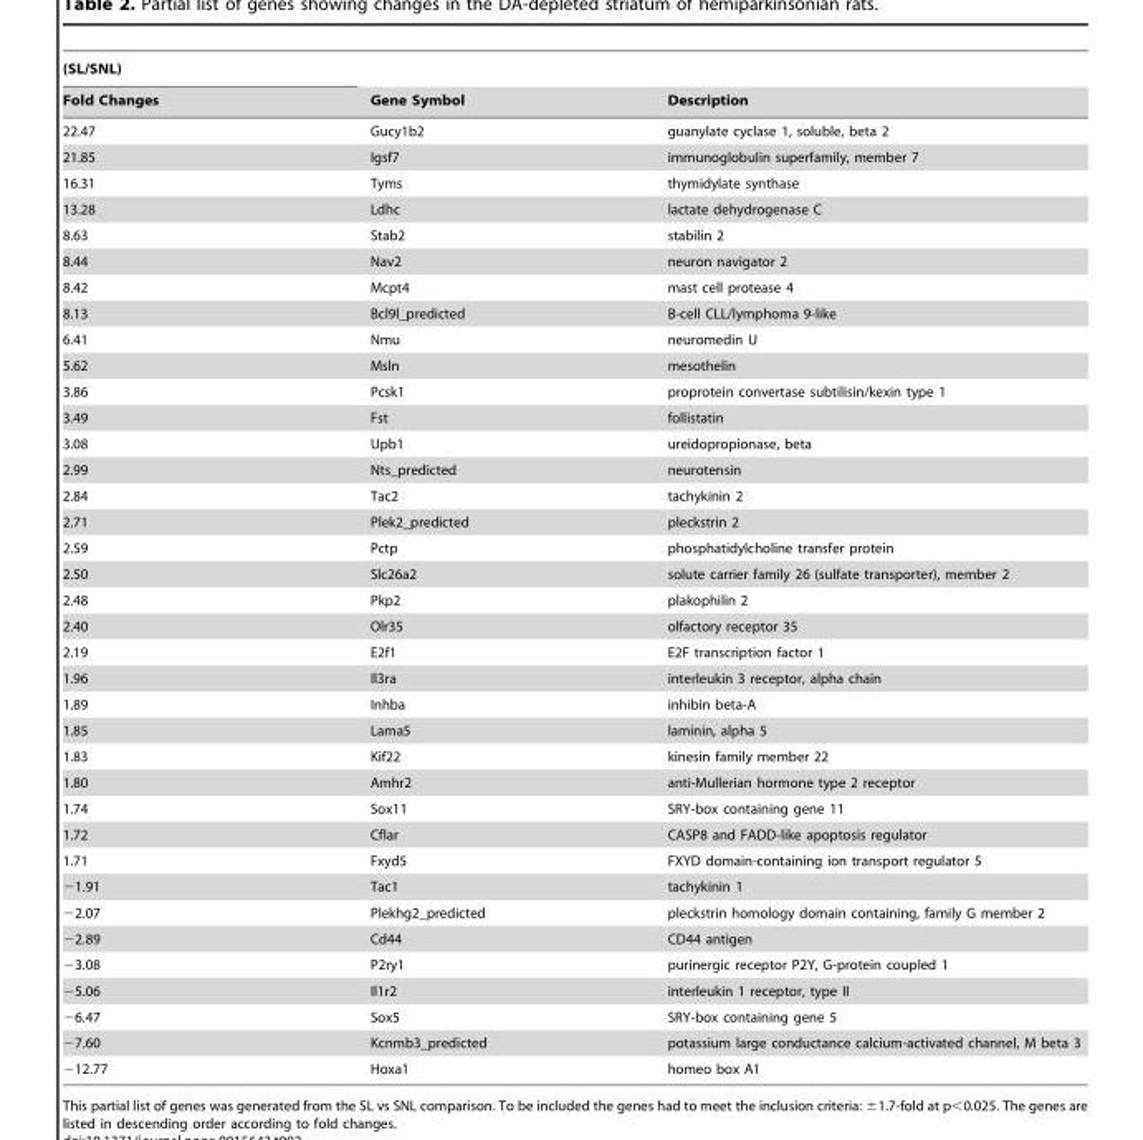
<table><thead><tr><td rowspan="2">(SL/SNL) Fold Changes</td><td rowspan="2">Gene Symbol</td><td rowspan="2">Description</td></tr><tr></tr></thead><tbody><tr><td>22.47</td><td>Gucy1b2</td><td>guanylate cyclase 1, soluble, beta 2</td></tr><tr><td>21.85</td><td>Igsf7</td><td>immunoglobulin superfamily, member 7</td></tr><tr><td>16.31</td><td>Tyms</td><td>thymidylate synthase</td></tr><tr><td>13.28</td><td>Ldhc</td><td>lactate dehydrogenase C</td></tr><tr><td>8.63</td><td>Stab2</td><td>stabilin 2</td></tr><tr><td>8.44</td><td>Nav2</td><td>neuron navigator 2</td></tr><tr><td>8.42</td><td>Mcpt4</td><td>mast cell protease 4</td></tr><tr><td>8.13</td><td>Bcl9l_predicted</td><td>B-cell CLL/lymphoma 9-like</td></tr><tr><td>6.41</td><td>Nmu</td><td>neuromedin U</td></tr><tr><td>5.62</td><td>Msln</td><td>mesothelin</td></tr><tr><td>3.86</td><td>Pcsk1</td><td>proprotein convertase subtilisin/kexin type 1</td></tr><tr><td>3.49</td><td>Fst</td><td>follistatin</td></tr><tr><td>3.08</td><td>Upb1</td><td>ureidopropionase, beta</td></tr><tr><td>2.99</td><td>Nts_predicted</td><td>neurotensin</td></tr><tr><td>2.84</td><td>Tac2</td><td>tachykinin 2</td></tr><tr><td>2.71</td><td>Plek2_predicted</td><td>pleckstrin 2</td></tr><tr><td>2.59</td><td>Pctp</td><td>phosphatidylcholine transfer protein</td></tr><tr><td>2.50</td><td>Slc26a2</td><td>solute carrier family 26 (sulfate transporter), member 2</td></tr><tr><td>2.48</td><td>Pkp2</td><td>plakophilin 2</td></tr><tr><td>2.40</td><td>Olr35</td><td>olfactory receptor 35</td></tr><tr><td>2.19</td><td>E2f1</td><td>E2F transcription factor 1</td></tr><tr><td>1.96</td><td>Il3ra</td><td>interleukin 3 receptor, alpha chain</td></tr><tr><td>1.89</td><td>Inhba</td><td>inhibin beta-A</td></tr><tr><td>1.85</td><td>Lama5</td><td>laminin, alpha 5</td></tr><tr><td>1.83</td><td>Kif22</td><td>kinesin family member 22</td></tr><tr><td>1.80</td><td>Amhr2</td><td>anti-Mullerian hormone type 2 receptor</td></tr><tr><td>1.74</td><td>Sox11</td><td>SRY-box containing gene 11</td></tr><tr><td>1.72</td><td>Cflar</td><td>CASP8 and FADD-like apoptosis regulator</td></tr><tr><td>1.71</td><td>Fxyd5</td><td>FXYD domain-containing ion transport regulator 5</td></tr><tr><td>−1.91</td><td>Tac1</td><td>tachykinin 1</td></tr><tr><td>−2.07</td><td>Plekhg2_predicted</td><td>pleckstrin homology domain containing, family G member 2</td></tr><tr><td>−2.89</td><td>Cd44</td><td>CD44 antigen</td></tr><tr><td>−3.08</td><td>P2ry1</td><td>purinergic receptor P2Y, G-protein coupled 1</td></tr><tr><td>−5.06</td><td>Il1r2</td><td>interleukin 1 receptor, type II</td></tr><tr><td>−6.47</td><td>Sox5</td><td>SRY-box containing gene 5</td></tr><tr><td>−7.60</td><td>Kcnmb3_predicted</td><td>potassium large conductance calcium-activated channel, M beta 3</td></tr><tr><td>−12.77</td><td>Hoxa1</td><td>homeo box A1</td></tr></tbody></table>